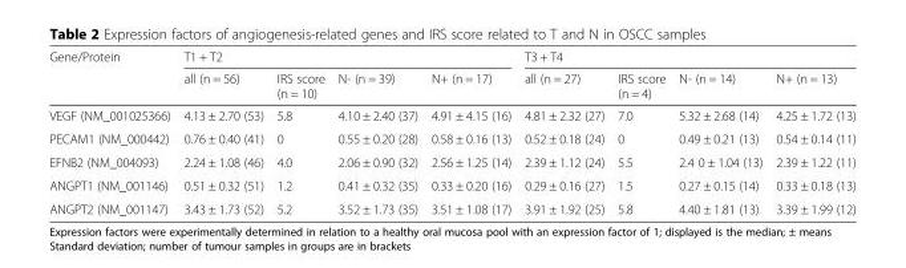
<table><thead><tr><td rowspan="2">Gene/Protein</td><td colspan="4">T1 + T2</td><td colspan="4">T3 + T4</td></tr><tr><td>all (n = 56)</td><td>IRS score (n = 10)</td><td>N- (n = 39)</td><td>N+ (n = 17)</td><td>all (n = 27)</td><td>IRS score (n = 4)</td><td>N- (n = 14)</td><td>N+ (n = 13)</td></tr></thead><tbody><tr><td>VEGF (NM_001025366)</td><td>4.13 ± 2.70 (53)</td><td>5.8</td><td>4.10 ± 2.40 (37)</td><td>4.91 ± 4.15 (16)</td><td>4.81 ± 2.32 (27)</td><td>7.0</td><td>5.32 ± 2.68 (14)</td><td>4.25 ± 1.72 (13)</td></tr><tr><td>PECAM1 (NM_000442)</td><td>0.76 ± 0.40 (41)</td><td>0</td><td>0.55 ± 0.20 (28)</td><td>0.58 ± 0.16 (13)</td><td>0.52 ± 0.18 (24)</td><td>0</td><td>0.49 ± 0.21 (13)</td><td>0.54 ± 0.14 (11)</td></tr><tr><td>EFNB2 (NM_004093)</td><td>2.24 ± 1.08 (46)</td><td>4.0</td><td>2.06 ± 0.90 (32)</td><td>2.56 ± 1.25 (14)</td><td>2.39 ± 1.12 (24)</td><td>5.5</td><td>2.4 0 ± 1.04 (13)</td><td>2.39 ± 1.22 (11)</td></tr><tr><td>ANGPT1 (NM_001146)</td><td>0.51 ± 0.32 (51)</td><td>1.2</td><td>0.41 ± 0.32 (35)</td><td>0.33 ± 0.20 (16)</td><td>0.29 ± 0.16 (27)</td><td>1.5</td><td>0.27 ± 0.15 (14)</td><td>0.33 ± 0.18 (13)</td></tr><tr><td>ANGPT2 (NM_001147)</td><td>3.43 ± 1.73 (52)</td><td>5.2</td><td>3.52 ± 1.73 (35)</td><td>3.51 ± 1.08 (17)</td><td>3.91 ± 1.92 (25)</td><td>5.8</td><td>4.40 ± 1.81 (13)</td><td>3.39 ± 1.99 (12)</td></tr></tbody></table>